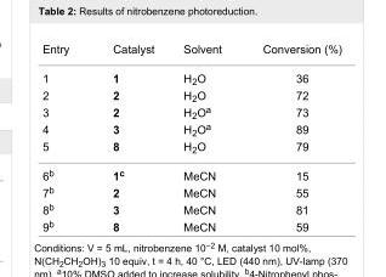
<table><tbody><tr><td>Entry</td><td>Catalyst</td><td>Solvent</td><td>Conversion (%)</td></tr><tr><td>1</td><td>1</td><td>H<sub>2</sub>O</td><td>36</td></tr><tr><td>2</td><td>2</td><td>H<sub>2</sub>O</td><td>72</td></tr><tr><td>3</td><td>2</td><td>H<sub>2</sub>O<sup>a</sup></td><td>73</td></tr><tr><td>4</td><td>3</td><td>H<sub>2</sub>O<sup>a</sup></td><td>89</td></tr><tr><td>5</td><td>8</td><td>H<sub>2</sub>O</td><td>79</td></tr><tr><td>6<sup>b</sup></td><td>1<sup>c</sup></td><td>MeCN</td><td>15</td></tr><tr><td>7<sup>b</sup></td><td>2</td><td>MeCN</td><td>55</td></tr><tr><td>8<sup>b</sup></td><td>3</td><td>MeCN</td><td>81</td></tr><tr><td>9<sup>b</sup></td><td>8</td><td>MeCN</td><td>59</td></tr></tbody></table>